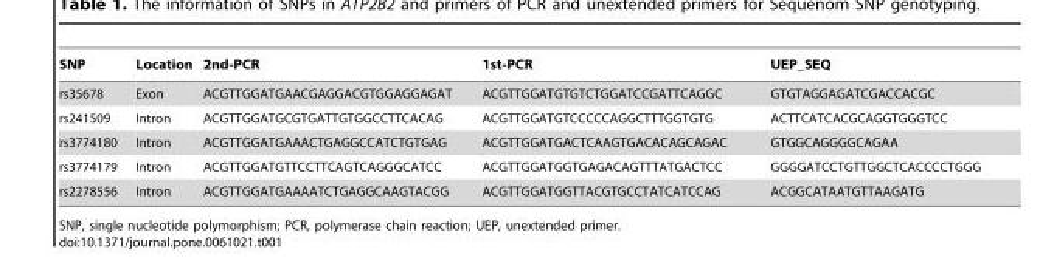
<table><thead><tr><td>SNP</td><td>Location</td><td>2nd-PCR</td><td>1st-PCR</td><td>UEP_SEQ</td></tr></thead><tbody><tr><td>rs35678</td><td>Exon</td><td>ACGTTGGATGAACGAGGACGTGGAGGAGAT</td><td>ACGTTGGATGTGTCTGGATCCGATTCAGGC</td><td>GTGTAGGAGATCGACCACGC</td></tr><tr><td>rs241509</td><td>Intron</td><td>ACGTTGGATGCGTGATTGTGGCCTTCACAG</td><td>ACGTTGGATGTCCCCCAGGCTTTGGTGTG</td><td>ACTTCATCACGCAGGTGGGTCC</td></tr><tr><td>rs3774180</td><td>Intron</td><td>ACGTTGGATGAAACTGAGGCCATCTGTGAG</td><td>ACGTTGGATGACTCAAGTGACACAGCAGAC</td><td>GTGGCAGGGGCAGAA</td></tr><tr><td>rs3774179</td><td>Intron</td><td>ACGTTGGATGTTCCTTCAGTCAGGGCATCC</td><td>ACGTTGGATGGTGAGACAGTTTATGACTCC</td><td>GGGGATCCTGTTGGCTCACCCCTGGG</td></tr><tr><td>rs2278556</td><td>Intron</td><td>ACGTTGGATGAAAATCTGAGGCAAGTACGG</td><td>ACGTTGGATGGTTACGTGCCTATCATCCAG</td><td>ACGGCATAATGTTAAGATG</td></tr></tbody></table>